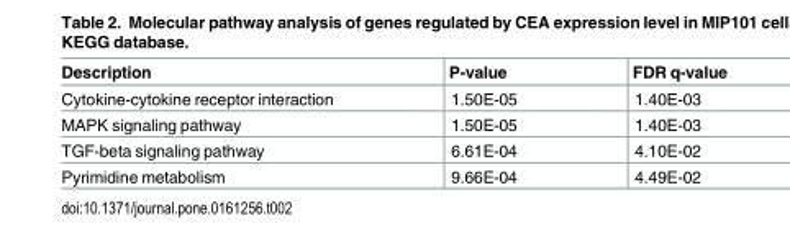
<table><thead><tr><td>Description</td><td>P-value</td><td>FDR q-value</td></tr></thead><tbody><tr><td>Cytokine-cytokine receptor interaction</td><td>1.50E-05</td><td>1.40E-03</td></tr><tr><td>MAPK signaling pathway</td><td>1.50E-05</td><td>1.40E-03</td></tr><tr><td>TGF-beta signaling pathway</td><td>6.61E-04</td><td>4.10E-02</td></tr><tr><td>Pyrimidine metabolism</td><td>9.66E-04</td><td>4.49E-02</td></tr></tbody></table>